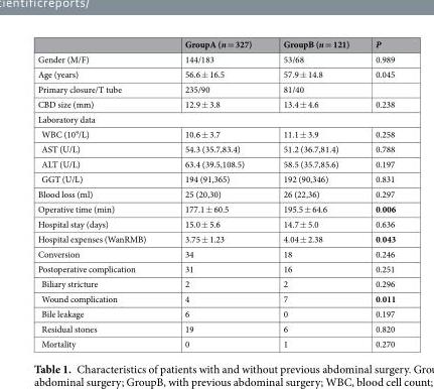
<table><thead><tr><td></td><td>GroupA (n = 327)</td><td>GroupB (n = 121)</td><td>P</td></tr></thead><tbody><tr><td>Gender (M/F)</td><td>144/183</td><td>53/68</td><td>0.989</td></tr><tr><td>Age (years)</td><td>56.6 ± 16.5</td><td>57.9 ± 14.8</td><td>0.045</td></tr><tr><td>Primary closure/T tube</td><td>235/90</td><td>81/40</td><td></td></tr><tr><td>CBD size (mm)</td><td>12.9 ± 3.8</td><td>13.4 ± 4.6</td><td>0.238</td></tr><tr><td colspan="4">Laboratory data</td></tr><tr><td>WBC (10<sup>9</sup>/L)</td><td>10.6 ± 3.7</td><td>11.1 ± 3.9</td><td>0.258</td></tr><tr><td>AST (U/L)</td><td>54.3 (35.7,83.4)</td><td>51.2 (36.7,81.4)</td><td>0.788</td></tr><tr><td>ALT (U/L)</td><td>63.4 (39.5,108.5)</td><td>58.5 (35.7,85.6)</td><td>0.197</td></tr><tr><td>GGT (U/L)</td><td>194 (91,365)</td><td>192 (90,346)</td><td>0.831</td></tr><tr><td>Blood loss (ml)</td><td>25 (20,30)</td><td>26 (22,36)</td><td>0.297</td></tr><tr><td>Operative time (min)</td><td>177.1 ± 60.5</td><td>195.5 ± 64.6</td><td>0.006</td></tr><tr><td>Hospital stay (days)</td><td>15.0 ± 5.6</td><td>14.7 ± 5.0</td><td>0.636</td></tr><tr><td>Hospital expenses (WanRMB)</td><td>3.75 ± 1.23</td><td>4.04 ± 2.38</td><td>0.043</td></tr><tr><td>Conversion</td><td>34</td><td>18</td><td>0.246</td></tr><tr><td>Postoperative complication</td><td>31</td><td>16</td><td>0.251</td></tr><tr><td>Biliary stricture</td><td>2</td><td>2</td><td>0.296</td></tr><tr><td>Wound complication</td><td>4</td><td>7</td><td>0.011</td></tr><tr><td>Bile leakage</td><td>6</td><td>0</td><td>0.197</td></tr><tr><td>Residual stones</td><td>19</td><td>6</td><td>0.820</td></tr><tr><td>Mortality</td><td>0</td><td>1</td><td>0.270</td></tr></tbody></table>